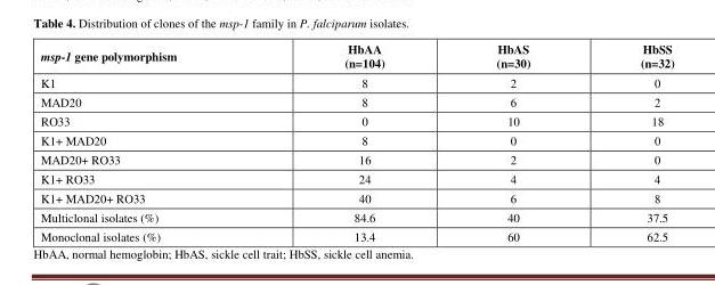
<table><thead><tr><td>msp-1 gene polymorphism</td><td>HbAA (n=104)</td><td>HbAS (n=30)</td><td>HbSS (n=32)</td></tr></thead><tbody><tr><td>K1</td><td>8</td><td>2</td><td>0</td></tr><tr><td>MAD20</td><td>8</td><td>6</td><td>2</td></tr><tr><td>RO33</td><td>0</td><td>10</td><td>18</td></tr><tr><td>K1+ MAD20</td><td>8</td><td>0</td><td>0</td></tr><tr><td>MAD20+ RO33</td><td>16</td><td>2</td><td>0</td></tr><tr><td>K1+ RO33</td><td>24</td><td>4</td><td>4</td></tr><tr><td>K1+ MAD20+ RO33</td><td>40</td><td>6</td><td>8</td></tr><tr><td>Multiclonal isolates (%)</td><td>84.6</td><td>40</td><td>37.5</td></tr><tr><td>Monoclonal isolates (%)</td><td>13.4</td><td>60</td><td>62.5</td></tr></tbody></table>